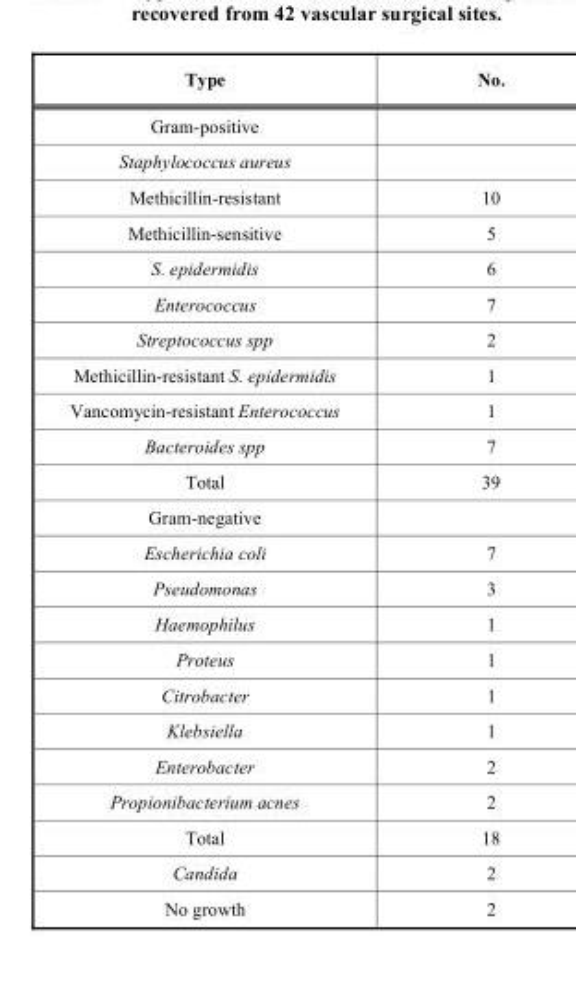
<table><thead><tr><td>Type</td><td>No.</td></tr></thead><tbody><tr><td colspan="2">Gram-positive</td></tr><tr><td colspan="2">Staphylococcus aureus</td></tr><tr><td>Methicillin-resistant</td><td>10</td></tr><tr><td>Methicillin-sensitive</td><td>5</td></tr><tr><td>S. epidermidis</td><td>6</td></tr><tr><td>Enterococcus</td><td>7</td></tr><tr><td>Streptococcus spp</td><td>2</td></tr><tr><td>Methicillin-resistant S. epidermidis</td><td>1</td></tr><tr><td>Vancomycin-resistant Enterococcus</td><td>1</td></tr><tr><td>Bacteroides spp</td><td>7</td></tr><tr><td>Total</td><td>39</td></tr><tr><td colspan="2">Gram-negative</td></tr><tr><td>Escherichia coli</td><td>7</td></tr><tr><td>Pseudomonas</td><td>3</td></tr><tr><td>Haemophilus</td><td>1</td></tr><tr><td>Proteus</td><td>1</td></tr><tr><td>Citrobacter</td><td>1</td></tr><tr><td>Klebsiella</td><td>1</td></tr><tr><td>Enterobacter</td><td>2</td></tr><tr><td>Propionibacterium acnes</td><td>2</td></tr><tr><td>Total</td><td>18</td></tr><tr><td>Candida</td><td>2</td></tr><tr><td>No growth</td><td>2</td></tr></tbody></table>